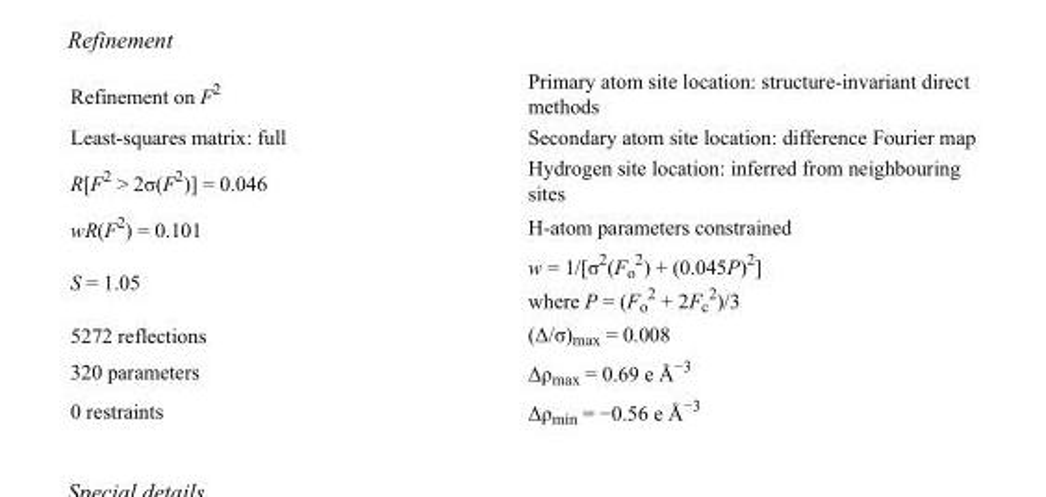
<table><tbody><tr><td>Refinement on F<sup>2</sup></td><td>Primary atom site location: structure-invariant direct methods</td></tr><tr><td>Least-squares matrix: full</td><td>Secondary atom site location: difference Fourier map</td></tr><tr><td>R[F<sup>2</sup> &gt; 2σ(F<sup>2</sup>)] = 0.046</td><td>Hydrogen site location: inferred from neighbouring sites</td></tr><tr><td>wR(F<sup>2</sup>) = 0.101</td><td>H-atom parameters constrained</td></tr><tr><td>S = 1.05</td><td>w = 1/[σ<sup>2</sup>(F<sub>o</sub> <sup>2</sup>) + (0.045P)<sup>2</sup>] where P = (F<sub>o</sub> <sup>2</sup> + 2F<sub>c</sub> <sup>2</sup>)/3</td></tr><tr><td>5272 reflections</td><td>(Δ/σ)<sub>max</sub> = 0.008</td></tr><tr><td>320 parameters</td><td>Δρ<sub>max</sub> = 0.69 e Å<sup>−3</sup></td></tr><tr><td>0 restraints</td><td>Δρ<sub>min</sub> = −0.56 e Å<sup>−3</sup></td></tr></tbody></table>